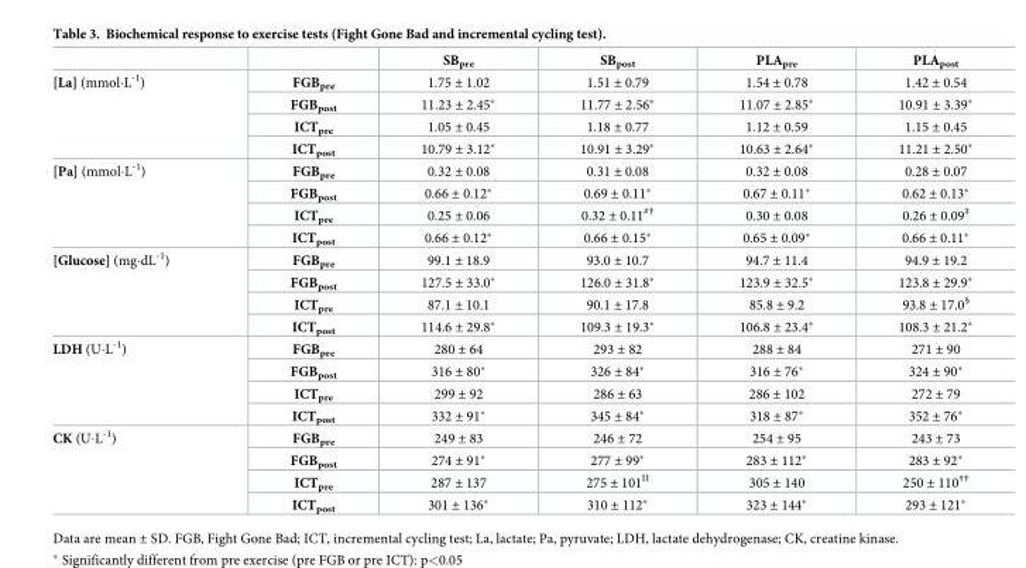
<table><thead><tr><td></td><td></td><td>SB<sub>pre</sub></td><td>SB<sub>post</sub></td><td>PLA<sub>pre</sub></td><td>PLA<sub>post</sub></td></tr></thead><tbody><tr><td rowspan="4">[La] (mmol∙L<sup>-1</sup>)</td><td>FGB<sub>pre</sub></td><td>1.75 ± 1.02</td><td>1.51 ± 0.79</td><td>1.54 ± 0.78</td><td>1.42 ± 0.54</td></tr><tr><td>FGB<sub>post</sub></td><td>11.23 ± 2.45*</td><td>11.77 ± 2.56*</td><td>11.07 ± 2.85*</td><td>10.91 ± 3.39*</td></tr><tr><td>ICT<sub>pre</sub></td><td>1.05 ± 0.45</td><td>1.18 ± 0.77</td><td>1.12 ± 0.59</td><td>1.15 ± 0.45</td></tr><tr><td>ICT<sub>post</sub></td><td>10.79 ± 3.12*</td><td>10.91 ± 3.29*</td><td>10.63 ± 2.64*</td><td>11.21 ± 2.50*</td></tr><tr><td rowspan="4">[Pa] (mmol∙L<sup>-1</sup>)</td><td>FGB<sub>pre</sub></td><td>0.32 ± 0.08</td><td>0.31 ± 0.08</td><td>0.32 ± 0.08</td><td>0.28 ± 0.07</td></tr><tr><td>FGB<sub>post</sub></td><td>0.66 ± 0.12*</td><td>0.69 ± 0.11*</td><td>0.67 ± 0.11*</td><td>0.62 ± 0.13*</td></tr><tr><td>ICT<sub>pre</sub></td><td>0.25 ± 0.06</td><td>0.32 ± 0.11<sup>#†</sup></td><td>0.30 ± 0.08</td><td>0.26 ± 0.09<sup>‡</sup></td></tr><tr><td>ICT<sub>post</sub></td><td>0.66 ± 0.12*</td><td>0.66 ± 0.15*</td><td>0.65 ± 0.09*</td><td>0.66 ± 0.11*</td></tr><tr><td rowspan="4">[Glucose] (mg∙dL<sup>-1</sup>)</td><td>FGB<sub>pre</sub></td><td>99.1 ± 18.9</td><td>93.0 ± 10.7</td><td>94.7 ± 11.4</td><td>94.9 ± 19.2</td></tr><tr><td>FGB<sub>post</sub></td><td>127.5 ± 33.0*</td><td>126.0 ± 31.8*</td><td>123.9 ± 32.5*</td><td>123.8 ± 29.9*</td></tr><tr><td>ICT<sub>pre</sub></td><td>87.1 ± 10.1</td><td>90.1 ± 17.8</td><td>85.8 ± 9.2</td><td>93.8 ± 17.0<sup>§</sup></td></tr><tr><td>ICT<sub>post</sub></td><td>114.6 ± 29.8*</td><td>109.3 ± 19.3*</td><td>106.8 ± 23.4*</td><td>108.3 ± 21.2*</td></tr><tr><td rowspan="4">LDH (U∙L<sup>-1</sup>)</td><td>FGB<sub>pre</sub></td><td>280 ± 64</td><td>293 ± 82</td><td>288 ± 84</td><td>271 ± 90</td></tr><tr><td>FGB<sub>post</sub></td><td>316 ± 80*</td><td>326 ± 84*</td><td>316 ± 76*</td><td>324 ± 90*</td></tr><tr><td>ICT<sub>pre</sub></td><td>299 ± 92</td><td>286 ± 63</td><td>286 ± 102</td><td>272 ± 79</td></tr><tr><td>ICT<sub>post</sub></td><td>332 ± 91*</td><td>345 ± 84*</td><td>318 ± 87*</td><td>352 ± 76*</td></tr><tr><td rowspan="4">CK (U∙L<sup>-1</sup>)</td><td>FGB<sub>pre</sub></td><td>249 ± 83</td><td>246 ± 72</td><td>254 ± 95</td><td>243 ± 73</td></tr><tr><td>FGB<sub>post</sub></td><td>274 ± 91*</td><td>277 ± 99*</td><td>283 ± 112*</td><td>283 ± 92*</td></tr><tr><td>ICT<sub>pre</sub></td><td>287 ± 137</td><td>275 ± 101<sup>II</sup></td><td>305 ± 140</td><td>250 ± 110<sup>††</sup></td></tr><tr><td>ICT<sub>post</sub></td><td>301 ± 136*</td><td>310 ± 112*</td><td>323 ± 144*</td><td>293 ± 121*</td></tr></tbody></table>